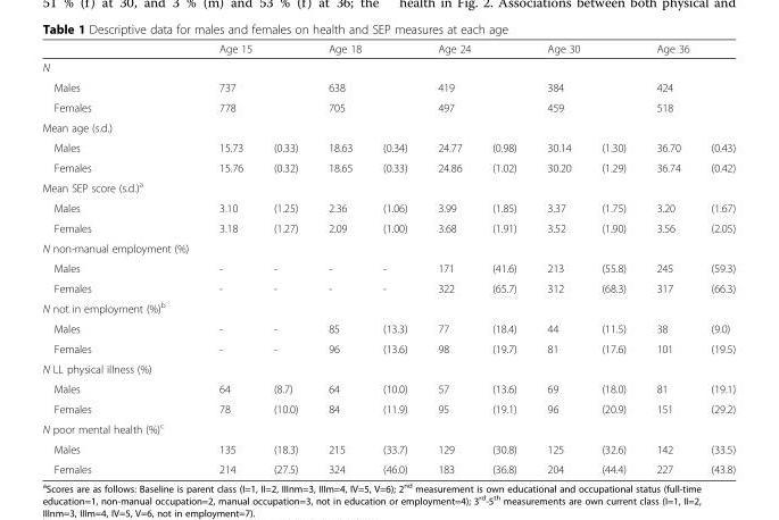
<table><thead><tr><td rowspan="2">N</td><td colspan="2">Age 15</td><td colspan="2">Age 18</td><td colspan="2">Age 24</td><td colspan="2">Age 30</td><td colspan="2">Age 36</td></tr><tr><td></td><td></td><td></td><td></td><td></td><td></td><td></td><td></td><td></td><td></td></tr></thead><tbody><tr><td>Males</td><td>737</td><td></td><td>638</td><td></td><td>419</td><td></td><td>384</td><td></td><td>424</td><td></td></tr><tr><td>Females</td><td>778</td><td></td><td>705</td><td></td><td>497</td><td></td><td>459</td><td></td><td>518</td><td></td></tr><tr><td colspan="11">Mean age (s.d.)</td></tr><tr><td>Males</td><td>15.73</td><td>(0.33)</td><td>18.63</td><td>(0.34)</td><td>24.77</td><td>(0.98)</td><td>30.14</td><td>(1.30)</td><td>36.70</td><td>(0.43)</td></tr><tr><td>Females</td><td>15.76</td><td>(0.32)</td><td>18.65</td><td>(0.33)</td><td>24.86</td><td>(1.02)</td><td>30.20</td><td>(1.29)</td><td>36.74</td><td>(0.42)</td></tr><tr><td colspan="11">Mean SEP score (s.d.)<sup>a</sup></td></tr><tr><td>Males</td><td>3.10</td><td>(1.25)</td><td>2.36</td><td>(1.06)</td><td>3.99</td><td>(1.85)</td><td>3.37</td><td>(1.75)</td><td>3.20</td><td>(1.67)</td></tr><tr><td>Females</td><td>3.18</td><td>(1.27)</td><td>2.09</td><td>(1.00)</td><td>3.68</td><td>(1.91)</td><td>3.52</td><td>(1.90)</td><td>3.56</td><td>(2.05)</td></tr><tr><td colspan="11">N non-manual employment (%)</td></tr><tr><td>Males</td><td>-</td><td>-</td><td>-</td><td>-</td><td>171</td><td>(41.6)</td><td>213</td><td>(55.8)</td><td>245</td><td>(59.3)</td></tr><tr><td>Females</td><td>-</td><td>-</td><td>-</td><td>-</td><td>322</td><td>(65.7)</td><td>312</td><td>(68.3)</td><td>317</td><td>(66.3)</td></tr><tr><td colspan="11">N not in employment (%)<sup>b</sup></td></tr><tr><td>Males</td><td>-</td><td>-</td><td>85</td><td>(13.3)</td><td>77</td><td>(18.4)</td><td>44</td><td>(11.5)</td><td>38</td><td>(9.0)</td></tr><tr><td>Females</td><td>-</td><td>-</td><td>96</td><td>(13.6)</td><td>98</td><td>(19.7)</td><td>81</td><td>(17.6)</td><td>101</td><td>(19.5)</td></tr><tr><td colspan="11">N LL physical illness (%)</td></tr><tr><td>Males</td><td>64</td><td>(8.7)</td><td>64</td><td>(10.0)</td><td>57</td><td>(13.6)</td><td>69</td><td>(18.0)</td><td>81</td><td>(19.1)</td></tr><tr><td>Females</td><td>78</td><td>(10.0)</td><td>84</td><td>(11.9)</td><td>95</td><td>(19.1)</td><td>96</td><td>(20.9)</td><td>151</td><td>(29.2)</td></tr><tr><td colspan="11">N poor mental health (%)<sup>c</sup></td></tr><tr><td>Males</td><td>135</td><td>(18.3)</td><td>215</td><td>(33.7)</td><td>129</td><td>(30.8)</td><td>125</td><td>(32.6)</td><td>142</td><td>(33.5)</td></tr><tr><td>Females</td><td>214</td><td>(27.5)</td><td>324</td><td>(46.0)</td><td>183</td><td>(36.8)</td><td>204</td><td>(44.4)</td><td>227</td><td>(43.8)</td></tr></tbody></table>